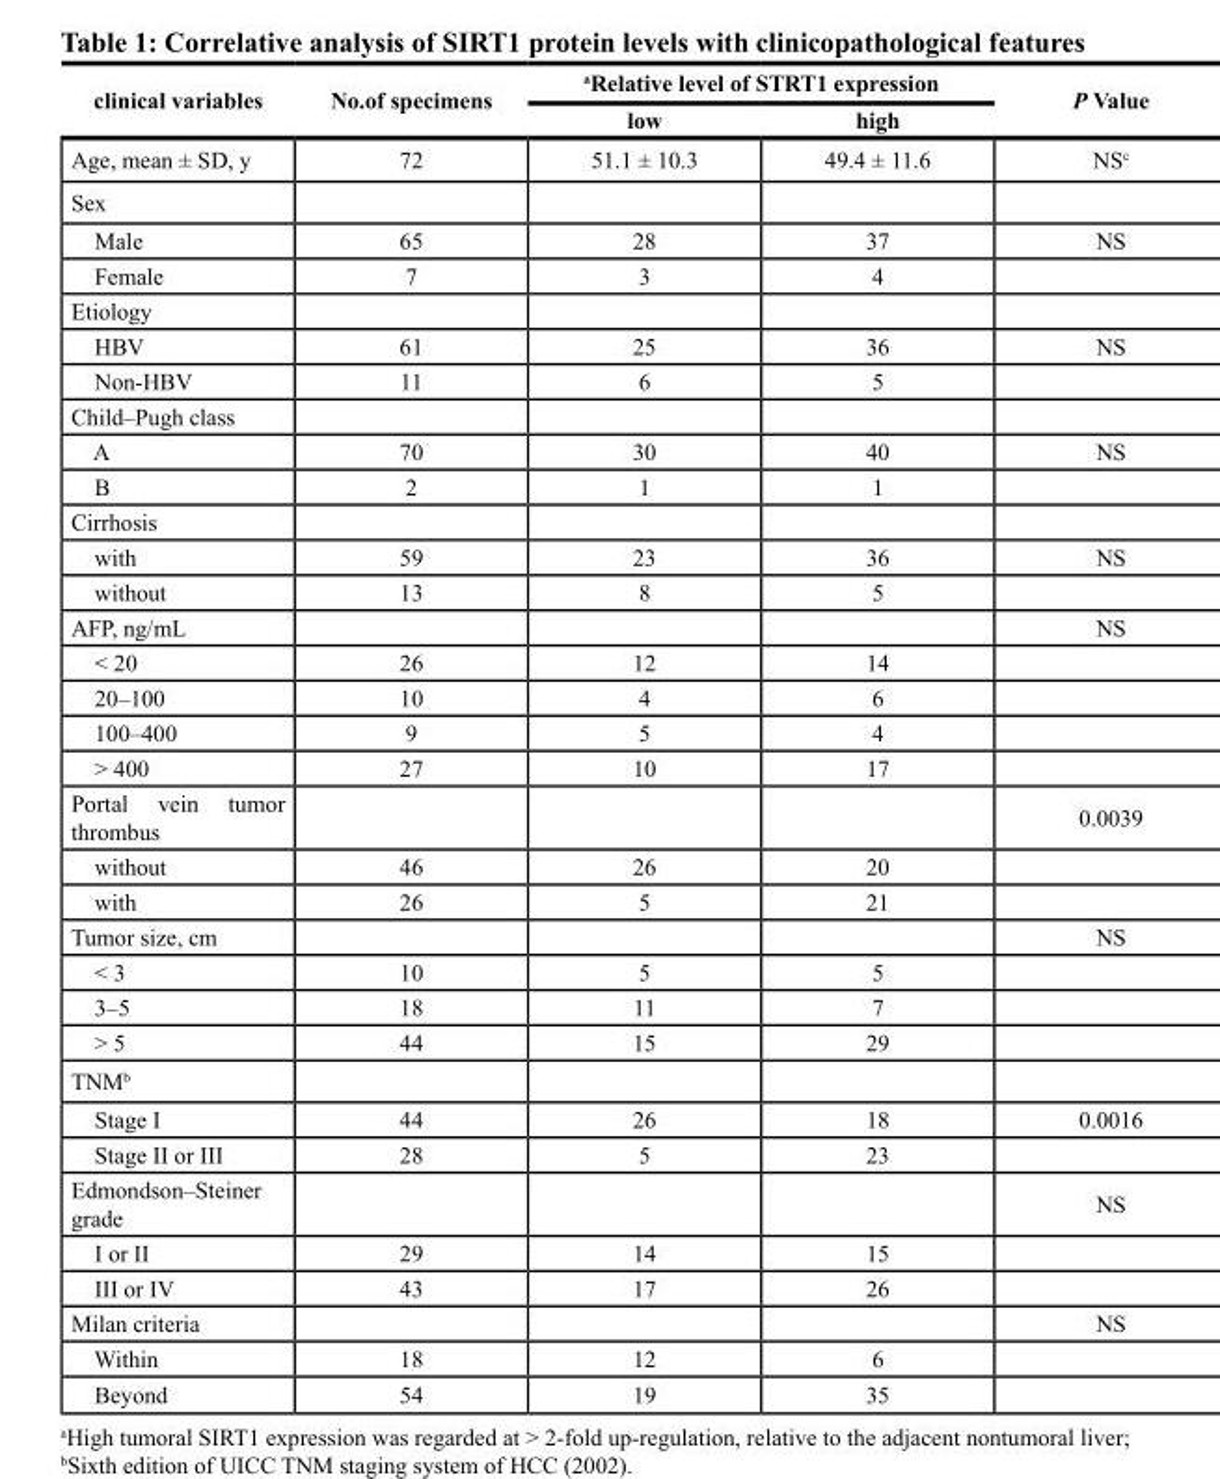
<table><thead><tr><td rowspan="2">clinical variables</td><td rowspan="2">No.of specimens</td><td colspan="2"><sup>a</sup>Relative level of STRT1 expression</td><td rowspan="2">P Value</td></tr><tr><td>low</td><td>high</td></tr></thead><tbody><tr><td>Age, mean ± SD, y</td><td>72</td><td>51.1 ± 10.3</td><td>49.4 ± 11.6</td><td>NS<sup>c</sup></td></tr><tr><td colspan="5">Sex</td></tr><tr><td>Male</td><td>65</td><td>28</td><td>37</td><td>NS</td></tr><tr><td>Female</td><td>7</td><td>3</td><td>4</td><td></td></tr><tr><td colspan="5">Etiology</td></tr><tr><td>HBV</td><td>61</td><td>25</td><td>36</td><td>NS</td></tr><tr><td>Non-HBV</td><td>11</td><td>6</td><td>5</td><td></td></tr><tr><td colspan="5">Child–Pugh class</td></tr><tr><td>A</td><td>70</td><td>30</td><td>40</td><td>NS</td></tr><tr><td>B</td><td>2</td><td>1</td><td>1</td><td></td></tr><tr><td colspan="5">Cirrhosis</td></tr><tr><td>with</td><td>59</td><td>23</td><td>36</td><td>NS</td></tr><tr><td>without</td><td>13</td><td>8</td><td>5</td><td></td></tr><tr><td>AFP, ng/mL</td><td></td><td></td><td></td><td>NS</td></tr><tr><td>&lt; 20</td><td>26</td><td>12</td><td>14</td><td></td></tr><tr><td>20–100</td><td>10</td><td>4</td><td>6</td><td></td></tr><tr><td>100–400</td><td>9</td><td>5</td><td>4</td><td></td></tr><tr><td>&gt; 400</td><td>27</td><td>10</td><td>17</td><td></td></tr><tr><td>Portal vein tumor thrombus</td><td></td><td></td><td></td><td>0.0039</td></tr><tr><td>without</td><td>46</td><td>26</td><td>20</td><td></td></tr><tr><td>with</td><td>26</td><td>5</td><td>21</td><td></td></tr><tr><td>Tumor size, cm</td><td></td><td></td><td></td><td>NS</td></tr><tr><td>&lt; 3</td><td>10</td><td>5</td><td>5</td><td></td></tr><tr><td>3–5</td><td>18</td><td>11</td><td>7</td><td></td></tr><tr><td>&gt; 5</td><td>44</td><td>15</td><td>29</td><td></td></tr><tr><td colspan="5">TNM<sup>b</sup></td></tr><tr><td>Stage I</td><td>44</td><td>26</td><td>18</td><td>0.0016</td></tr><tr><td>Stage II or III</td><td>28</td><td>5</td><td>23</td><td></td></tr><tr><td>Edmondson–Steiner grade</td><td></td><td></td><td></td><td>NS</td></tr><tr><td>I or II</td><td>29</td><td>14</td><td>15</td><td></td></tr><tr><td>III or IV</td><td>43</td><td>17</td><td>26</td><td></td></tr><tr><td>Milan criteria</td><td></td><td></td><td></td><td>NS</td></tr><tr><td>Within</td><td>18</td><td>12</td><td>6</td><td></td></tr><tr><td>Beyond</td><td>54</td><td>19</td><td>35</td><td></td></tr></tbody></table>